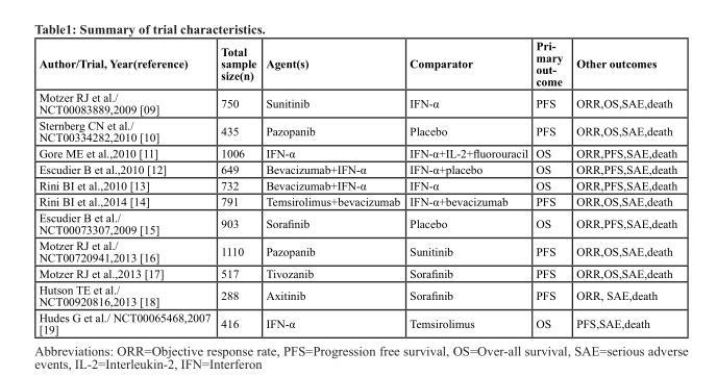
<table><thead><tr><td>Author/Trial, Year(reference)</td><td>Total sample size(n)</td><td>Agent(s)</td><td>Comparator</td><td>Pri- mary out- come</td><td>Other outcomes</td></tr></thead><tbody><tr><td>Motzer RJ et al./ NCT00083889,2009 [09]</td><td>750</td><td>Sunitinib</td><td>IFN-α</td><td>PFS</td><td>ORR,OS,SAE,death</td></tr><tr><td>Sternberg CN et al./ NCT00334282,2010 [10]</td><td>435</td><td>Pazopanib</td><td>Placebo</td><td>PFS</td><td>ORR,OS,SAE,death</td></tr><tr><td>Gore ME et al.,2010 [11]</td><td>1006</td><td>IFN-α</td><td>IFN-α+IL-2+fluorouracil</td><td>OS</td><td>ORR,PFS,SAE,death</td></tr><tr><td>Escudier B et al.,2010 [12]</td><td>649</td><td>Bevacizumab+IFN-α</td><td>IFN-α+placebo</td><td>OS</td><td>ORR,PFS,SAE,death</td></tr><tr><td>Rini BI et al.,2010 [13]</td><td>732</td><td>Bevacizumab+IFN-α</td><td>IFN-α</td><td>OS</td><td>ORR,PFS,SAE,death</td></tr><tr><td>Rini BI et al.,2014 [14]</td><td>791</td><td>Temsirolimus+bevacizumab</td><td>IFN-α+bevacizumab</td><td>PFS</td><td>ORR,OS,SAE,death</td></tr><tr><td>Escudier B et al./ NCT00073307,2009 [15]</td><td>903</td><td>Sorafinib</td><td>Placebo</td><td>OS</td><td>ORR,PFS,SAE,death</td></tr><tr><td>Motzer RJ et al./ NCT00720941,2013 [16]</td><td>1110</td><td>Pazopanib</td><td>Sunitinib</td><td>PFS</td><td>ORR,OS,SAE,death</td></tr><tr><td>Motzer RJ et al.,2013 [17]</td><td>517</td><td>Tivozanib</td><td>Sorafinib</td><td>PFS</td><td>ORR,OS,SAE,death</td></tr><tr><td>Hutson TE et al./ NCT00920816,2013 [18]</td><td>288</td><td>Axitinib</td><td>Sorafinib</td><td>PFS</td><td>ORR, SAE,death</td></tr><tr><td>Hudes G et al./ NCT00065468,2007 [19]</td><td>416</td><td>IFN-α</td><td>Temsirolimus</td><td>OS</td><td>PFS,SAE,death</td></tr></tbody></table>